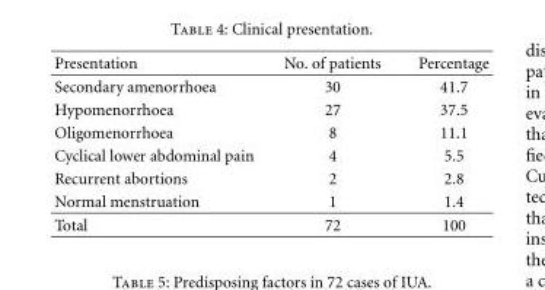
<table><thead><tr><td>Presentation</td><td>No. of patients</td><td>Percentage</td></tr></thead><tbody><tr><td>Secondary amenorrhoea</td><td>30</td><td>41.7</td></tr><tr><td>Hypomenorrhoea</td><td>27</td><td>37.5</td></tr><tr><td>Oligomenorrhoea</td><td>8</td><td>11.1</td></tr><tr><td>Cyclical lower abdominal pain</td><td>4</td><td>5.5</td></tr><tr><td>Recurrent abortions</td><td>2</td><td>2.8</td></tr><tr><td>Normal menstruation</td><td>1</td><td>1.4</td></tr><tr><td>Total</td><td>72</td><td>100</td></tr></tbody></table>